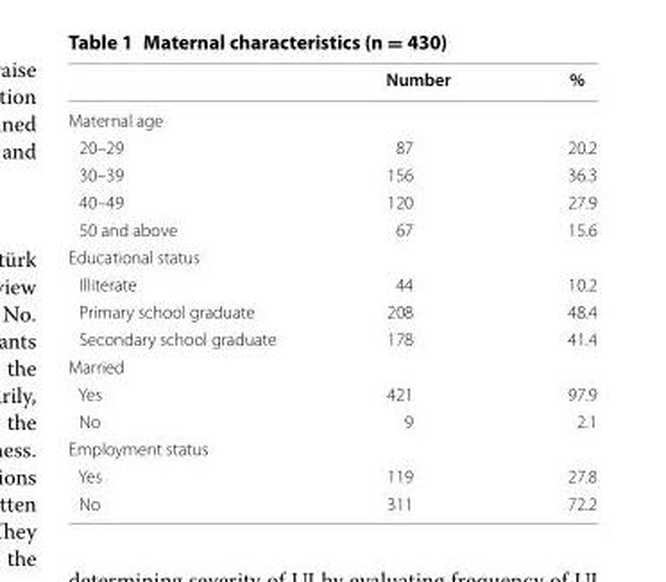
<table><thead><tr><td></td><td>Number</td><td>%</td></tr></thead><tbody><tr><td colspan="3">Maternal age</td></tr><tr><td>20–29</td><td>87</td><td>20.2</td></tr><tr><td>30–39</td><td>156</td><td>36.3</td></tr><tr><td>40–49</td><td>120</td><td>27.9</td></tr><tr><td>50 and above</td><td>67</td><td>15.6</td></tr><tr><td colspan="3">Educational status</td></tr><tr><td>Illiterate</td><td>44</td><td>10.2</td></tr><tr><td>Primary school graduate</td><td>208</td><td>48.4</td></tr><tr><td>Secondary school graduate</td><td>178</td><td>41.4</td></tr><tr><td colspan="3">Married</td></tr><tr><td>Yes</td><td>421</td><td>97.9</td></tr><tr><td>No</td><td>9</td><td>2.1</td></tr><tr><td colspan="3">Employment status</td></tr><tr><td>Yes</td><td>119</td><td>27.8</td></tr><tr><td>No</td><td>311</td><td>72.2</td></tr></tbody></table>